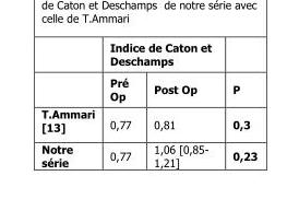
<table><thead><tr><td rowspan="2"></td><td colspan="2">Indice de Caton et Deschamps</td><td rowspan="2">P</td></tr><tr><td>Pré Op</td><td>Post Op</td></tr></thead><tbody><tr><td>T.Ammari [13]</td><td>0,77</td><td>0,81</td><td>0,3</td></tr><tr><td>Notre série</td><td>0,77</td><td>1,06 [0,85- 1,21]</td><td>0,23</td></tr></tbody></table>